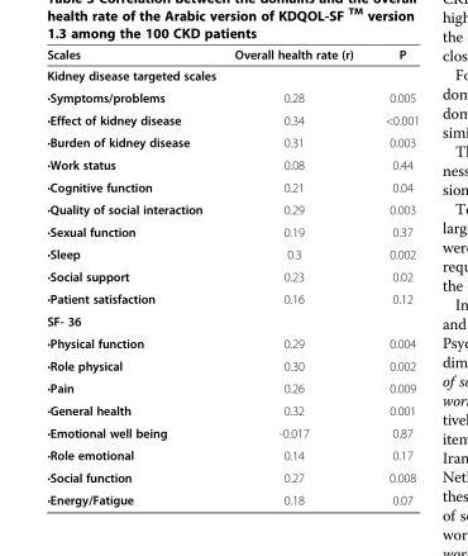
<table><thead><tr><td>Scales</td><td>Overall health rate (r)</td><td>P</td></tr></thead><tbody><tr><td colspan="3">Kidney disease targeted scales</td></tr><tr><td>•Symptoms/problems</td><td>0.28</td><td>0.005</td></tr><tr><td>•Effect of kidney disease</td><td>0.34</td><td>&lt;0.001</td></tr><tr><td>•Burden of kidney disease</td><td>0.31</td><td>0.003</td></tr><tr><td>•Work status</td><td>0.08</td><td>0.44</td></tr><tr><td>•Cognitive function</td><td>0.21</td><td>0.04</td></tr><tr><td>•Quality of social interaction</td><td>0.29</td><td>0.003</td></tr><tr><td>•Sexual function</td><td>0.19</td><td>0.37</td></tr><tr><td>•Sleep</td><td>0.3</td><td>0.002</td></tr><tr><td>•Social support</td><td>0.23</td><td>0.02</td></tr><tr><td>•Patient satisfaction</td><td>0.16</td><td>0.12</td></tr><tr><td colspan="3">SF- 36</td></tr><tr><td>•Physical function</td><td>0.29</td><td>0.004</td></tr><tr><td>•Role physical</td><td>0.30</td><td>0.002</td></tr><tr><td>•Pain</td><td>0.26</td><td>0.009</td></tr><tr><td>•General health</td><td>0.32</td><td>0.001</td></tr><tr><td>•Emotional well being</td><td>-0.017</td><td>0.87</td></tr><tr><td>•Role emotional</td><td>0.14</td><td>0.17</td></tr><tr><td>•Social function</td><td>0.27</td><td>0.008</td></tr><tr><td>•Energy/Fatigue</td><td>0.18</td><td>0.07</td></tr></tbody></table>